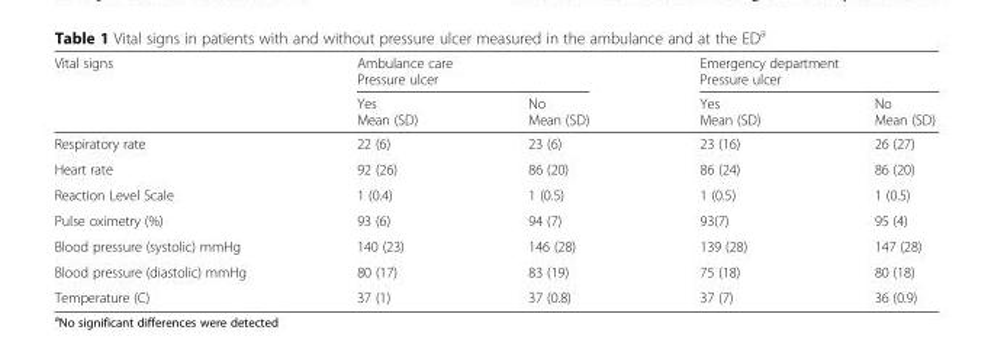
<table><thead><tr><td rowspan="3">Vital signs</td><td rowspan="2" colspan="2">Ambulance care Pressure ulcer</td><td rowspan="2" colspan="2">Emergency department Pressure ulcer</td></tr><tr></tr><tr><td>Yes Mean (SD)</td><td>No Mean (SD)</td><td>Yes Mean (SD)</td><td>No Mean (SD)</td></tr></thead><tbody><tr><td>Respiratory rate</td><td>22 (6)</td><td>23 (6)</td><td>23 (16)</td><td>26 (27)</td></tr><tr><td>Heart rate</td><td>92 (26)</td><td>86 (20)</td><td>86 (24)</td><td>86 (20)</td></tr><tr><td>Reaction Level Scale</td><td>1 (0.4)</td><td>1 (0.5)</td><td>1 (0.5)</td><td>1 (0.5)</td></tr><tr><td>Pulse oximetry (%)</td><td>93 (6)</td><td>94 (7)</td><td>93(7)</td><td>95 (4)</td></tr><tr><td>Blood pressure (systolic) mmHg</td><td>140 (23)</td><td>146 (28)</td><td>139 (28)</td><td>147 (28)</td></tr><tr><td>Blood pressure (diastolic) mmHg</td><td>80 (17)</td><td>83 (19)</td><td>75 (18)</td><td>80 (18)</td></tr><tr><td>Temperature (C)</td><td>37 (1)</td><td>37 (0.8)</td><td>37 (7)</td><td>36 (0.9)</td></tr></tbody></table>